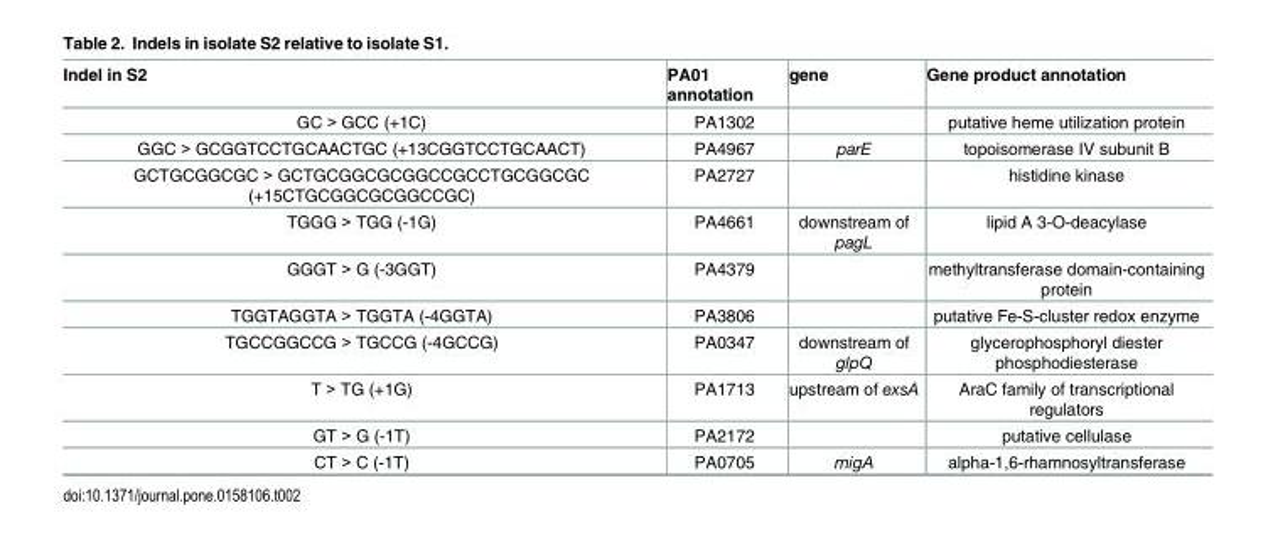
<table><thead><tr><td>Indel in S2</td><td>PA01 annotation</td><td>gene</td><td>Gene product annotation</td></tr></thead><tbody><tr><td>GC &gt; GCC (+1C)</td><td>PA1302</td><td></td><td>putative heme utilization protein</td></tr><tr><td>GGC &gt; GCGGTCCTGCAACTGC (+13CGGTCCTGCAACT)</td><td>PA4967</td><td>parE</td><td>topoisomerase IV subunit B</td></tr><tr><td>GCTGCGGCGC &gt; GCTGCGGCGCGGCCGCCTGCGGCGC (+15CTGCGGCGCGGCCGC)</td><td>PA2727</td><td></td><td>histidine kinase</td></tr><tr><td>TGGG &gt; TGG (-1G)</td><td>PA4661</td><td>downstream of pagL</td><td>lipid A 3-O-deacylase</td></tr><tr><td>GGGT &gt; G (-3GGT)</td><td>PA4379</td><td></td><td>methyltransferase domain-containing protein</td></tr><tr><td>TGGTAGGTA &gt; TGGTA (-4GGTA)</td><td>PA3806</td><td></td><td>putative Fe-S-cluster redox enzyme</td></tr><tr><td>TGCCGGCCG &gt; TGCCG (-4GCCG)</td><td>PA0347</td><td>downstream of glpQ</td><td>glycerophosphoryl diester phosphodiesterase</td></tr><tr><td>T &gt; TG (+1G)</td><td>PA1713</td><td>upstream of exsA</td><td>AraC family of transcriptional regulators</td></tr><tr><td>GT &gt; G (-1T)</td><td>PA2172</td><td></td><td>putative cellulase</td></tr><tr><td>CT &gt; C (-1T)</td><td>PA0705</td><td>migA</td><td>alpha-1,6-rhamnosyltransferase</td></tr></tbody></table>